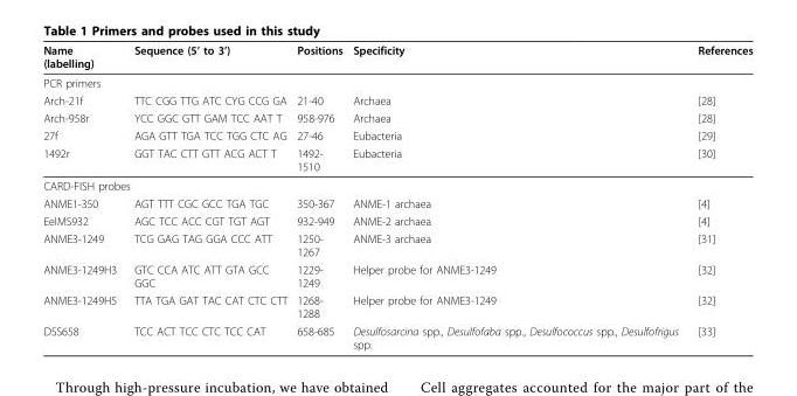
<table><thead><tr><td>Name (labelling)</td><td>Sequence (5’ to 3’)</td><td>Positions</td><td>Specificity</td><td>References</td></tr></thead><tbody><tr><td colspan="5">PCR primers</td></tr><tr><td>Arch-21f</td><td>TTC CGG TTG ATC CYG CCG GA</td><td>21-40</td><td>Archaea</td><td>[28]</td></tr><tr><td>Arch-958r</td><td>YCC GGC GTT GAM TCC AAT T</td><td>958-976</td><td>Archaea</td><td>[28]</td></tr><tr><td>27f</td><td>AGA GTT TGA TCC TGG CTC AG</td><td>27-46</td><td>Eubacteria</td><td>[29]</td></tr><tr><td>1492r</td><td>GGT TAC CTT GTT ACG ACT T</td><td>1492- 1510</td><td>Eubacteria</td><td>[30]</td></tr><tr><td colspan="5">CARD-FISH probes</td></tr><tr><td>ANME1-350</td><td>AGT TTT CGC GCC TGA TGC</td><td>350-367</td><td>ANME-1 archaea</td><td>[4]</td></tr><tr><td>EelMS932</td><td>AGC TCC ACC CGT TGT AGT</td><td>932-949</td><td>ANME-2 archaea</td><td>[4]</td></tr><tr><td>ANME3-1249</td><td>TCG GAG TAG GGA CCC ATT</td><td>1250- 1267</td><td>ANME-3 archaea</td><td>[31]</td></tr><tr><td>ANME3-1249H3</td><td>GTC CCA ATC ATT GTA GCC GGC</td><td>1229- 1249</td><td>Helper probe for ANME3-1249</td><td>[32]</td></tr><tr><td>ANME3-1249H5</td><td>TTA TGA GAT TAC CAT CTC CTT</td><td>1268- 1288</td><td>Helper probe for ANME3-1249</td><td>[32]</td></tr><tr><td>DSS658</td><td>TCC ACT TCC CTC TCC CAT</td><td>658-685</td><td>Desulfosarcina spp., Desulfofaba spp., Desulfococcus spp., Desulfofrigus spp.</td><td>[33]</td></tr></tbody></table>